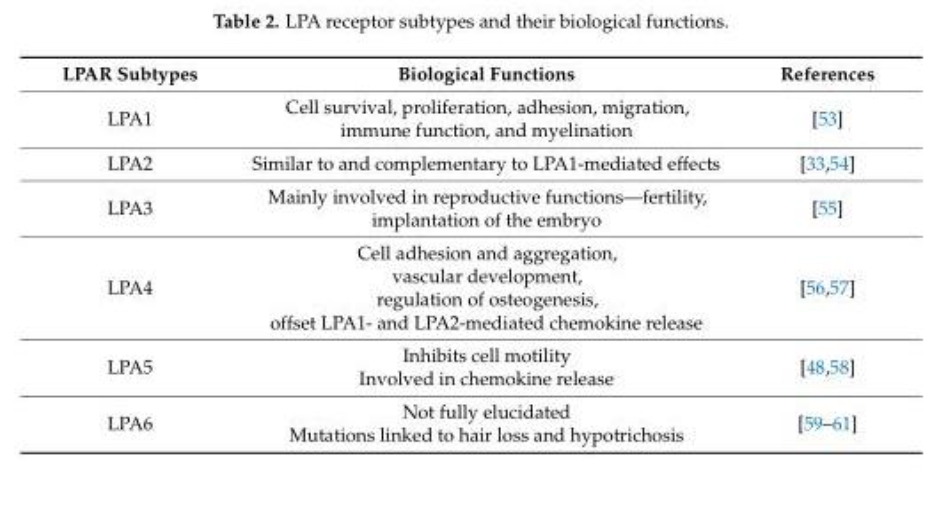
<table><thead><tr><td>LPAR Subtypes</td><td>Biological Functions</td><td>References</td></tr></thead><tbody><tr><td>LPA1</td><td>Cell survival, proliferation, adhesion, migration, immune function, and myelination</td><td>[53]</td></tr><tr><td>LPA2</td><td>Similar to and complementary to LPA1-mediated effects</td><td>[33,54]</td></tr><tr><td>LPA3</td><td>Mainly involved in reproductive functions—fertility, implantation of the embryo</td><td>[55]</td></tr><tr><td>LPA4</td><td>Cell adhesion and aggregation, vascular development, regulation of osteogenesis, offset LPA1- and LPA2-mediated chemokine release</td><td>[56,57]</td></tr><tr><td>LPA5</td><td>Inhibits cell motility Involved in chemokine release</td><td>[48,58]</td></tr><tr><td>LPA6</td><td>Not fully elucidated Mutations linked to hair loss and hypotrichosis</td><td>[59–61]</td></tr></tbody></table>